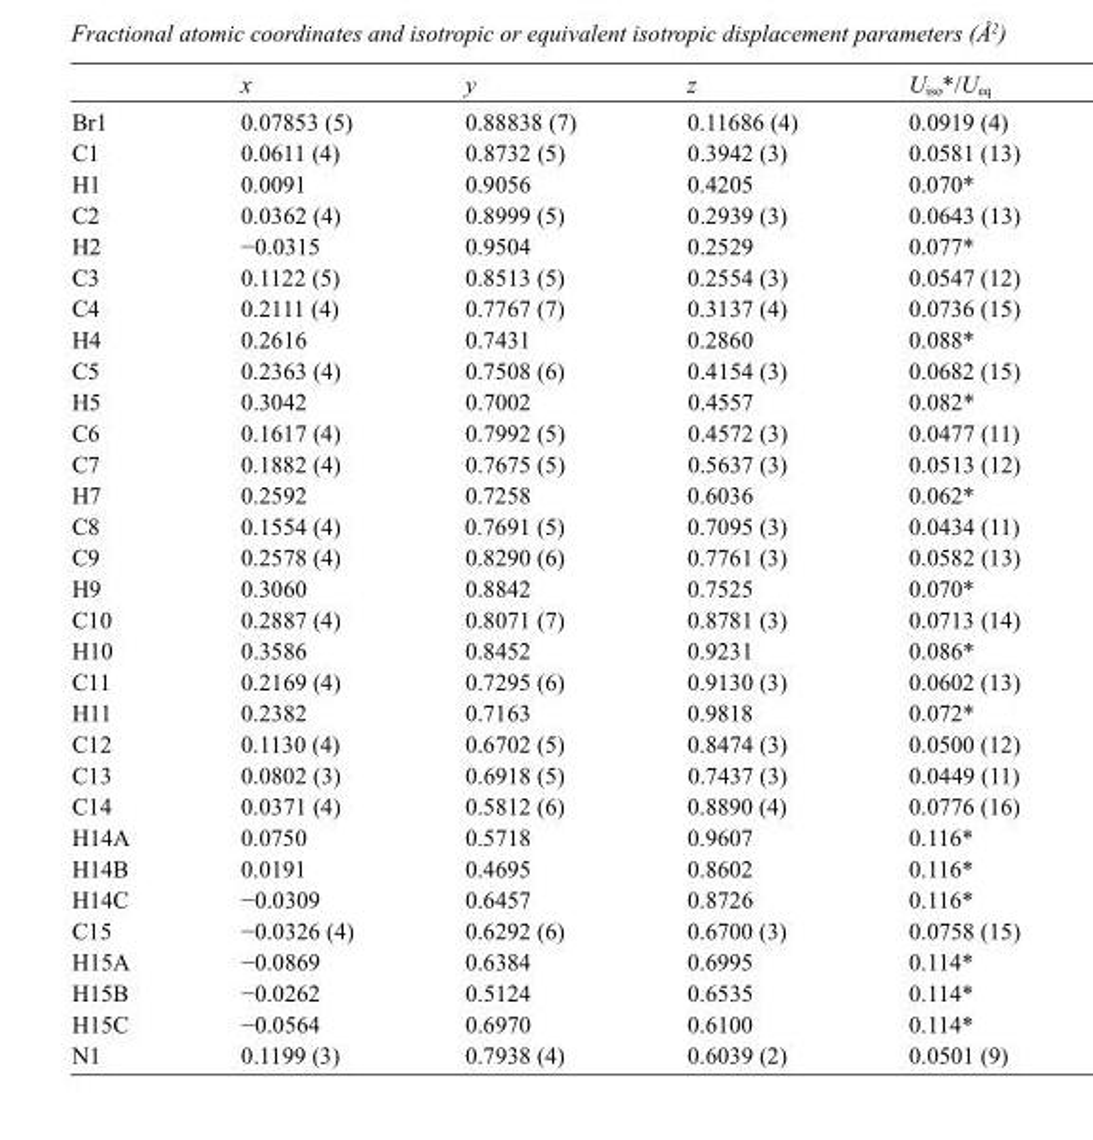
<table><thead><tr><td></td><td>x</td><td>y</td><td>z</td><td>U<sub>iso</sub>*/U<sub>eq</sub></td></tr></thead><tbody><tr><td>Br1</td><td>0.07853 (5)</td><td>0.88838 (7)</td><td>0.11686 (4)</td><td>0.0919 (4)</td></tr><tr><td>C1</td><td>0.0611 (4)</td><td>0.8732 (5)</td><td>0.3942 (3)</td><td>0.0581 (13)</td></tr><tr><td>H1</td><td>0.0091</td><td>0.9056</td><td>0.4205</td><td>0.070*</td></tr><tr><td>C2</td><td>0.0362 (4)</td><td>0.8999 (5)</td><td>0.2939 (3)</td><td>0.0643 (13)</td></tr><tr><td>H2</td><td>−0.0315</td><td>0.9504</td><td>0.2529</td><td>0.077*</td></tr><tr><td>C3</td><td>0.1122 (5)</td><td>0.8513 (5)</td><td>0.2554 (3)</td><td>0.0547 (12)</td></tr><tr><td>C4</td><td>0.2111 (4)</td><td>0.7767 (7)</td><td>0.3137 (4)</td><td>0.0736 (15)</td></tr><tr><td>H4</td><td>0.2616</td><td>0.7431</td><td>0.2860</td><td>0.088*</td></tr><tr><td>C5</td><td>0.2363 (4)</td><td>0.7508 (6)</td><td>0.4154 (3)</td><td>0.0682 (15)</td></tr><tr><td>H5</td><td>0.3042</td><td>0.7002</td><td>0.4557</td><td>0.082*</td></tr><tr><td>C6</td><td>0.1617 (4)</td><td>0.7992 (5)</td><td>0.4572 (3)</td><td>0.0477 (11)</td></tr><tr><td>C7</td><td>0.1882 (4)</td><td>0.7675 (5)</td><td>0.5637 (3)</td><td>0.0513 (12)</td></tr><tr><td>H7</td><td>0.2592</td><td>0.7258</td><td>0.6036</td><td>0.062*</td></tr><tr><td>C8</td><td>0.1554 (4)</td><td>0.7691 (5)</td><td>0.7095 (3)</td><td>0.0434 (11)</td></tr><tr><td>C9</td><td>0.2578 (4)</td><td>0.8290 (6)</td><td>0.7761 (3)</td><td>0.0582 (13)</td></tr><tr><td>H9</td><td>0.3060</td><td>0.8842</td><td>0.7525</td><td>0.070*</td></tr><tr><td>C10</td><td>0.2887 (4)</td><td>0.8071 (7)</td><td>0.8781 (3)</td><td>0.0713 (14)</td></tr><tr><td>H10</td><td>0.3586</td><td>0.8452</td><td>0.9231</td><td>0.086*</td></tr><tr><td>C11</td><td>0.2169 (4)</td><td>0.7295 (6)</td><td>0.9130 (3)</td><td>0.0602 (13)</td></tr><tr><td>H11</td><td>0.2382</td><td>0.7163</td><td>0.9818</td><td>0.072*</td></tr><tr><td>C12</td><td>0.1130 (4)</td><td>0.6702 (5)</td><td>0.8474 (3)</td><td>0.0500 (12)</td></tr><tr><td>C13</td><td>0.0802 (3)</td><td>0.6918 (5)</td><td>0.7437 (3)</td><td>0.0449 (11)</td></tr><tr><td>C14</td><td>0.0371 (4)</td><td>0.5812 (6)</td><td>0.8890 (4)</td><td>0.0776 (16)</td></tr><tr><td>H14A</td><td>0.0750</td><td>0.5718</td><td>0.9607</td><td>0.116*</td></tr><tr><td>H14B</td><td>0.0191</td><td>0.4695</td><td>0.8602</td><td>0.116*</td></tr><tr><td>H14C</td><td>−0.0309</td><td>0.6457</td><td>0.8726</td><td>0.116*</td></tr><tr><td>C15</td><td>−0.0326 (4)</td><td>0.6292 (6)</td><td>0.6700 (3)</td><td>0.0758 (15)</td></tr><tr><td>H15A</td><td>−0.0869</td><td>0.6384</td><td>0.6995</td><td>0.114*</td></tr><tr><td>H15B</td><td>−0.0262</td><td>0.5124</td><td>0.6535</td><td>0.114*</td></tr><tr><td>H15C</td><td>−0.0564</td><td>0.6970</td><td>0.6100</td><td>0.114*</td></tr><tr><td>N1</td><td>0.1199 (3)</td><td>0.7938 (4)</td><td>0.6039 (2)</td><td>0.0501 (9)</td></tr></tbody></table>